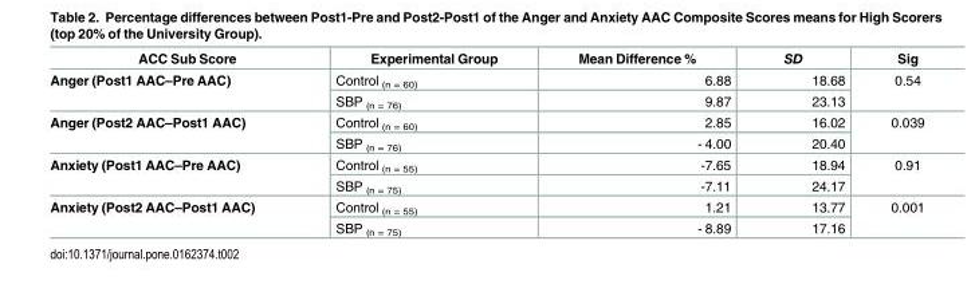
<table><thead><tr><td>ACC Sub Score</td><td>Experimental Group</td><td>Mean Difference %</td><td>SD</td><td>Sig</td></tr></thead><tbody><tr><td rowspan="2">Anger (Post1 AAC–Pre AAC)</td><td>Control <sub>(n = 60)</sub></td><td>6.88</td><td>18.68</td><td rowspan="2">0.54</td></tr><tr><td>SBP <sub>(n = 76)</sub></td><td>9.87</td><td>23.13</td></tr><tr><td rowspan="2">Anger (Post2 AAC–Post1 AAC)</td><td>Control <sub>(n = 60)</sub></td><td>2.85</td><td>16.02</td><td rowspan="2">0.039</td></tr><tr><td>SBP <sub>(n = 76)</sub></td><td>- 4.00</td><td>20.40</td></tr><tr><td rowspan="2">Anxiety (Post1 AAC–Pre AAC)</td><td>Control <sub>(n = 55)</sub></td><td>-7.65</td><td>18.94</td><td rowspan="2">0.91</td></tr><tr><td>SBP <sub>(n = 75)</sub></td><td>-7.11</td><td>24.17</td></tr><tr><td rowspan="2">Anxiety (Post2 AAC–Post1 AAC)</td><td>Control <sub>(n = 55)</sub></td><td>1.21</td><td>13.77</td><td rowspan="2">0.001</td></tr><tr><td>SBP <sub>(n = 75)</sub></td><td>- 8.89</td><td>17.16</td></tr></tbody></table>